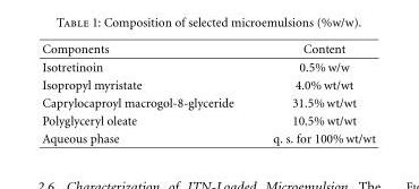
<table><thead><tr><td>Components</td><td>Content</td></tr></thead><tbody><tr><td>Isotretinoin</td><td>0.5% w/w</td></tr><tr><td>Isopropyl myristate</td><td>4.0% wt/wt</td></tr><tr><td>Caprylocaproyl macrogol-8-glyceride</td><td>31.5% wt/wt</td></tr><tr><td>Polyglyceryl oleate</td><td>10.5% wt/wt</td></tr><tr><td>Aqueous phase</td><td>q. s. for 100% wt/wt</td></tr></tbody></table>